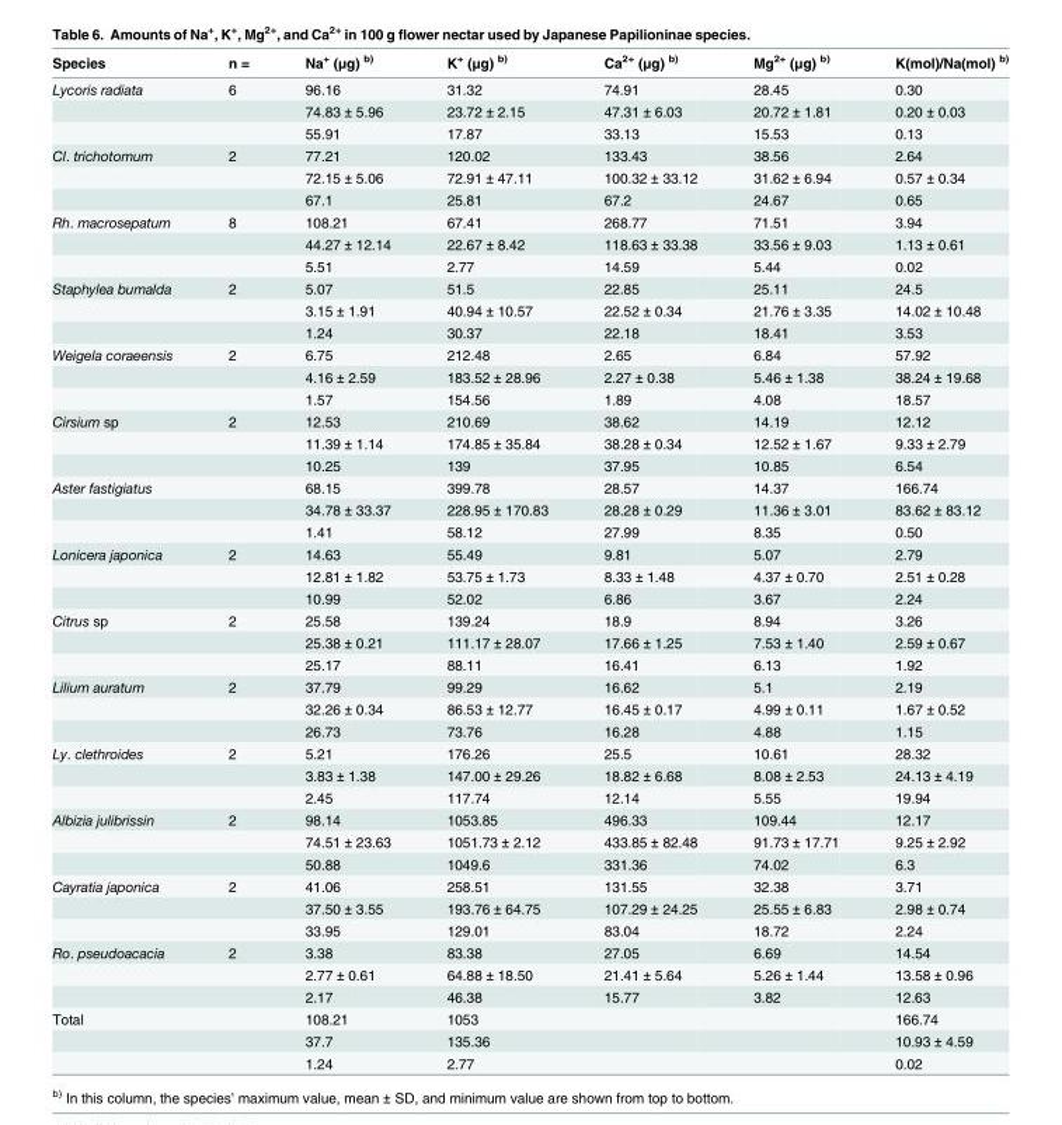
<table><thead><tr><td>Species</td><td>n =</td><td>Na<sup>+</sup> (μg) <sup>b)</sup></td><td>K<sup>+</sup> (μg) <sup>b)</sup></td><td>Ca<sup>2+</sup> (μg) <sup>b)</sup></td><td>Mg<sup>2+</sup> (μg) <sup>b)</sup></td><td>K(mol)/Na(mol) <sup>b)</sup></td></tr></thead><tbody><tr><td rowspan="3">Lycoris radiata</td><td>6</td><td>96.16</td><td>31.32</td><td>74.91</td><td>28.45</td><td>0.30</td></tr><tr><td></td><td>74.83 ± 5.96</td><td>23.72 ± 2.15</td><td>47.31 ± 6.03</td><td>20.72 ± 1.81</td><td>0.20 ± 0.03</td></tr><tr><td></td><td>55.91</td><td>17.87</td><td>33.13</td><td>15.53</td><td>0.13</td></tr><tr><td rowspan="3">Cl. trichotomum</td><td>2</td><td>77.21</td><td>120.02</td><td>133.43</td><td>38.56</td><td>2.64</td></tr><tr><td></td><td>72.15 ± 5.06</td><td>72.91 ± 47.11</td><td>100.32 ± 33.12</td><td>31.62 ± 6.94</td><td>0.57 ± 0.34</td></tr><tr><td></td><td>67.1</td><td>25.81</td><td>67.2</td><td>24.67</td><td>0.65</td></tr><tr><td rowspan="3">Rh. macrosepatum</td><td>8</td><td>108.21</td><td>67.41</td><td>268.77</td><td>71.51</td><td>3.94</td></tr><tr><td></td><td>44.27 ± 12.14</td><td>22.67 ± 8.42</td><td>118.63 ± 33.38</td><td>33.56 ± 9.03</td><td>1.13 ± 0.61</td></tr><tr><td></td><td>5.51</td><td>2.77</td><td>14.59</td><td>5.44</td><td>0.02</td></tr><tr><td rowspan="3">Staphylea bumalda</td><td>2</td><td>5.07</td><td>51.5</td><td>22.85</td><td>25.11</td><td>24.5</td></tr><tr><td></td><td>3.15 ± 1.91</td><td>40.94 ± 10.57</td><td>22.52 ± 0.34</td><td>21.76 ± 3.35</td><td>14.02 ± 10.48</td></tr><tr><td></td><td>1.24</td><td>30.37</td><td>22.18</td><td>18.41</td><td>3.53</td></tr><tr><td rowspan="3">Weigela coraeensis</td><td>2</td><td>6.75</td><td>212.48</td><td>2.65</td><td>6.84</td><td>57.92</td></tr><tr><td></td><td>4.16 ± 2.59</td><td>183.52 ± 28.96</td><td>2.27 ± 0.38</td><td>5.46 ± 1.38</td><td>38.24 ± 19.68</td></tr><tr><td></td><td>1.57</td><td>154.56</td><td>1.89</td><td>4.08</td><td>18.57</td></tr><tr><td rowspan="3">Cirsium sp</td><td>2</td><td>12.53</td><td>210.69</td><td>38.62</td><td>14.19</td><td>12.12</td></tr><tr><td></td><td>11.39 ± 1.14</td><td>174.85 ± 35.84</td><td>38.28 ± 0.34</td><td>12.52 ± 1.67</td><td>9.33 ± 2.79</td></tr><tr><td></td><td>10.25</td><td>139</td><td>37.95</td><td>10.85</td><td>6.54</td></tr><tr><td rowspan="3">Aster fastigiatus</td><td></td><td>68.15</td><td>399.78</td><td>28.57</td><td>14.37</td><td>166.74</td></tr><tr><td></td><td>34.78 ± 33.37</td><td>228.95 ± 170.83</td><td>28.28 ± 0.29</td><td>11.36 ± 3.01</td><td>83.62 ± 83.12</td></tr><tr><td></td><td>1.41</td><td>58.12</td><td>27.99</td><td>8.35</td><td>0.50</td></tr><tr><td rowspan="3">Lonicera japonica</td><td>2</td><td>14.63</td><td>55.49</td><td>9.81</td><td>5.07</td><td>2.79</td></tr><tr><td></td><td>12.81 ± 1.82</td><td>53.75 ± 1.73</td><td>8.33 ± 1.48</td><td>4.37 ± 0.70</td><td>2.51 ± 0.28</td></tr><tr><td></td><td>10.99</td><td>52.02</td><td>6.86</td><td>3.67</td><td>2.24</td></tr><tr><td rowspan="3">Citrus sp</td><td>2</td><td>25.58</td><td>139.24</td><td>18.9</td><td>8.94</td><td>3.26</td></tr><tr><td></td><td>25.38 ± 0.21</td><td>111.17 ± 28.07</td><td>17.66 ± 1.25</td><td>7.53 ± 1.40</td><td>2.59 ± 0.67</td></tr><tr><td></td><td>25.17</td><td>88.11</td><td>16.41</td><td>6.13</td><td>1.92</td></tr><tr><td rowspan="3">Lilium auratum</td><td>2</td><td>37.79</td><td>99.29</td><td>16.62</td><td>5.1</td><td>2.19</td></tr><tr><td></td><td>32.26 ± 0.34</td><td>86.53 ± 12.77</td><td>16.45 ± 0.17</td><td>4.99 ± 0.11</td><td>1.67 ± 0.52</td></tr><tr><td></td><td>26.73</td><td>73.76</td><td>16.28</td><td>4.88</td><td>1.15</td></tr><tr><td rowspan="3">Ly. clethroides</td><td>2</td><td>5.21</td><td>176.26</td><td>25.5</td><td>10.61</td><td>28.32</td></tr><tr><td></td><td>3.83 ± 1.38</td><td>147.00 ± 29.26</td><td>18.82 ± 6.68</td><td>8.08 ± 2.53</td><td>24.13 ± 4.19</td></tr><tr><td></td><td>2.45</td><td>117.74</td><td>12.14</td><td>5.55</td><td>19.94</td></tr><tr><td rowspan="3">Albizia julibrissin</td><td>2</td><td>98.14</td><td>1053.85</td><td>496.33</td><td>109.44</td><td>12.17</td></tr><tr><td></td><td>74.51 ± 23.63</td><td>1051.73 ± 2.12</td><td>433.85 ± 82.48</td><td>91.73 ± 17.71</td><td>9.25 ± 2.92</td></tr><tr><td></td><td>50.88</td><td>1049.6</td><td>331.36</td><td>74.02</td><td>6.3</td></tr><tr><td rowspan="3">Cayratia japonica</td><td>2</td><td>41.06</td><td>258.51</td><td>131.55</td><td>32.38</td><td>3.71</td></tr><tr><td></td><td>37.50 ± 3.55</td><td>193.76 ± 64.75</td><td>107.29 ± 24.25</td><td>25.55 ± 6.83</td><td>2.98 ± 0.74</td></tr><tr><td></td><td>33.95</td><td>129.01</td><td>83.04</td><td>18.72</td><td>2.24</td></tr><tr><td rowspan="3">Ro. pseudoacacia</td><td>2</td><td>3.38</td><td>83.38</td><td>27.05</td><td>6.69</td><td>14.54</td></tr><tr><td></td><td>2.77 ± 0.61</td><td>64.88 ± 18.50</td><td>21.41 ± 5.64</td><td>5.26 ± 1.44</td><td>13.58 ± 0.96</td></tr><tr><td></td><td>2.17</td><td>46.38</td><td>15.77</td><td>3.82</td><td>12.63</td></tr><tr><td rowspan="3">Total</td><td></td><td>108.21</td><td>1053</td><td></td><td></td><td>166.74</td></tr><tr><td></td><td>37.7</td><td>135.36</td><td></td><td></td><td>10.93 ± 4.59</td></tr><tr><td></td><td>1.24</td><td>2.77</td><td></td><td></td><td>0.02</td></tr></tbody></table>